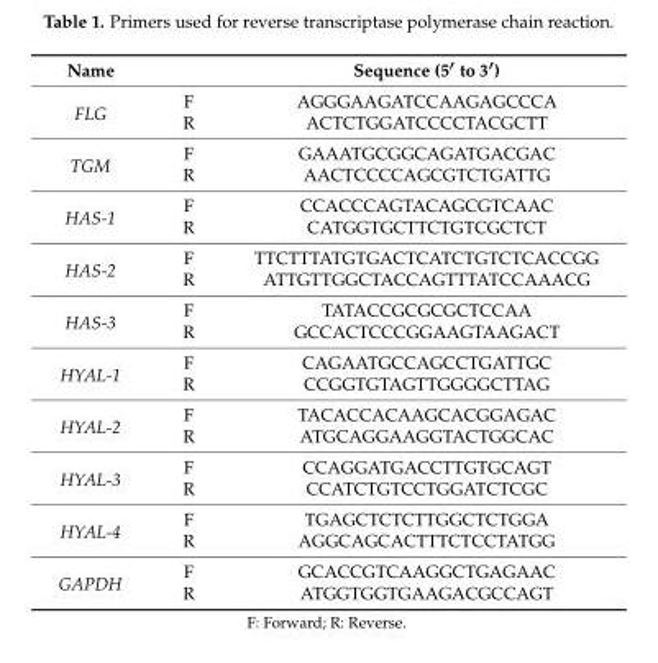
<table><thead><tr><td>Name</td><td></td><td>Sequence (5′ to 3′)</td></tr></thead><tbody><tr><td rowspan="2">FLG</td><td>F</td><td>AGGGAAGATCCAAGAGCCCA</td></tr><tr><td>R</td><td>ACTCTGGATCCCCTACGCTT</td></tr><tr><td rowspan="2">TGM</td><td>F</td><td>GAAATGCGGCAGATGACGAC</td></tr><tr><td>R</td><td>AACTCCCCAGCGTCTGATTG</td></tr><tr><td rowspan="2">HAS-1</td><td>F</td><td>CCACCCAGTACAGCGTCAAC</td></tr><tr><td>R</td><td>CATGGTGCTTCTGTCGCTCT</td></tr><tr><td rowspan="2">HAS-2</td><td>F</td><td>TTCTTTATGTGACTCATCTGTCTCACCGG</td></tr><tr><td>R</td><td>ATTGTTGGCTACCAGTTTATCCAAACG</td></tr><tr><td rowspan="2">HAS-3</td><td>F</td><td>TATACCGCGCGCTCCAA</td></tr><tr><td>R</td><td>GCCACTCCCGGAAGTAAGACT</td></tr><tr><td rowspan="2">HYAL-1</td><td>F</td><td>CAGAATGCCAGCCTGATTGC</td></tr><tr><td>R</td><td>CCGGTGTAGTTGGGGCTTAG</td></tr><tr><td rowspan="2">HYAL-2</td><td>F</td><td>TACACCACAAGCACGGAGAC</td></tr><tr><td>R</td><td>ATGCAGGAAGGTACTGGCAC</td></tr><tr><td rowspan="2">HYAL-3</td><td>F</td><td>CCAGGATGACCTTGTGCAGT</td></tr><tr><td>R</td><td>CCATCTGTCCTGGATCTCGC</td></tr><tr><td rowspan="2">HYAL-4</td><td>F</td><td>TGAGCTCTCTTGGCTCTGGA</td></tr><tr><td>R</td><td>AGGCAGCACTTTCTCCTATGG</td></tr><tr><td rowspan="2">GAPDH</td><td>F</td><td>GCACCGTCAAGGCTGAGAAC</td></tr><tr><td>R</td><td>ATGGTGGTGAAGACGCCAGT</td></tr></tbody></table>